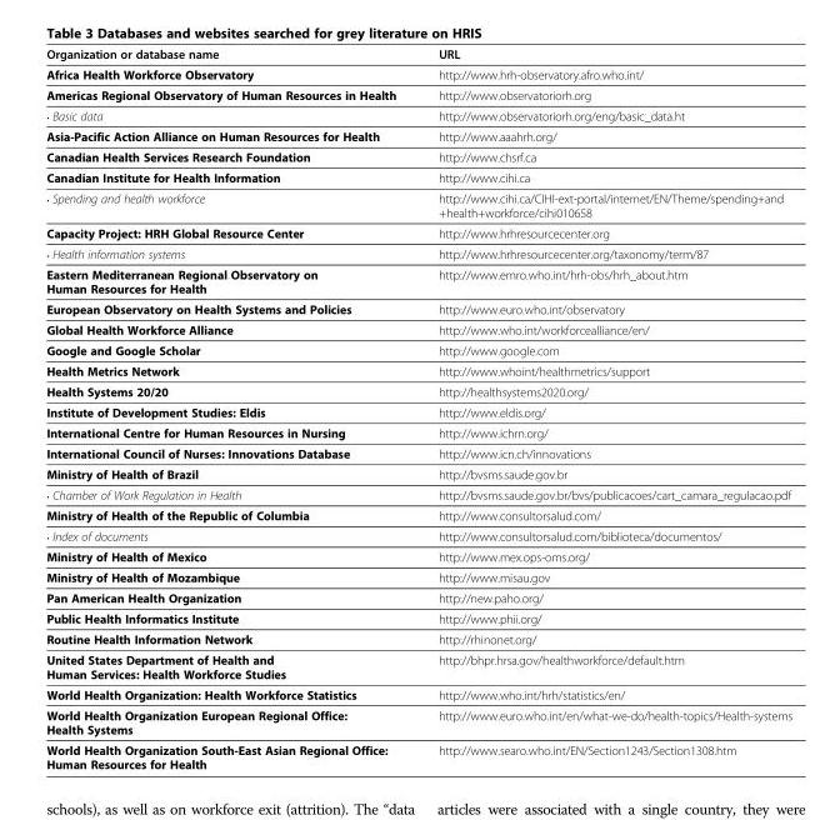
<table><thead><tr><td>Organization or database name</td><td>URL</td></tr></thead><tbody><tr><td>Africa Health Workforce Observatory</td><td>http://www.hrh-observatory.afro.who.int/</td></tr><tr><td>Americas Regional Observatory of Human Resources in Health</td><td>http://www.observatoriorh.org</td></tr><tr><td>• Basic data</td><td>http://www.observatoriorh.org/eng/basic_data.ht</td></tr><tr><td>Asia-Pacific Action Alliance on Human Resources for Health</td><td>http://www.aaahrh.org/</td></tr><tr><td>Canadian Health Services Research Foundation</td><td>http://www.chsrf.ca</td></tr><tr><td>Canadian Institute for Health Information</td><td>http://www.cihi.ca</td></tr><tr><td>• Spending and health workforce</td><td>http://www.cihi.ca/CIHI-ext-portal/internet/EN/Theme/spending+and +health+workforce/cihi010658</td></tr><tr><td>Capacity Project: HRH Global Resource Center</td><td>http://www.hrhresourcecenter.org</td></tr><tr><td>• Health information systems</td><td>http://www.hrhresourcecenter.org/taxonomy/term/87</td></tr><tr><td>Eastern Mediterranean Regional Observatory on Human Resources for Health</td><td>http://www.emro.who.int/hrh-obs/hrh_about.htm</td></tr><tr><td>European Observatory on Health Systems and Policies</td><td>http://www.euro.who.int/observatory</td></tr><tr><td>Global Health Workforce Alliance</td><td>http://www.who.int/workforcealliance/en/</td></tr><tr><td>Google and Google Scholar</td><td>http://www.google.com</td></tr><tr><td>Health Metrics Network</td><td>http://www.whoint/healthmetrics/support</td></tr><tr><td>Health Systems 20/20</td><td>http://healthsystems2020.org/</td></tr><tr><td>Institute of Development Studies: Eldis</td><td>http://www.eldis.org/</td></tr><tr><td>International Centre for Human Resources in Nursing</td><td>http://www.ichrn.org/</td></tr><tr><td>International Council of Nurses: Innovations Database</td><td>http://www.icn.ch/innovations</td></tr><tr><td>Ministry of Health of Brazil</td><td>http://bvsms.saude.gov.br</td></tr><tr><td>• Chamber of Work Regulation in Health</td><td>http://bvsms.saude.gov.br/bvs/publicacoes/cart_camara_regulacao.pdf</td></tr><tr><td>Ministry of Health of the Republic of Columbia</td><td>http://www.consultorsalud.com/</td></tr><tr><td>• Index of documents</td><td>http://www.consultorsalud.com/biblioteca/documentos/</td></tr><tr><td>Ministry of Health of Mexico</td><td>http://www.mex.ops-oms.org/</td></tr><tr><td>Ministry of Health of Mozambique</td><td>http://www.misau.gov</td></tr><tr><td>Pan American Health Organization</td><td>http://new.paho.org/</td></tr><tr><td>Public Health Informatics Institute</td><td>http://www.phii.org/</td></tr><tr><td>Routine Health Information Network</td><td>http://rhinonet.org/</td></tr><tr><td>United States Department of Health and Human Services: Health Workforce Studies</td><td>http://bhpr.hrsa.gov/healthworkforce/default.htm</td></tr><tr><td>World Health Organization: Health Workforce Statistics</td><td>http://www.who.int/hrh/statistics/en/</td></tr><tr><td>World Health Organization European Regional Office: Health Systems</td><td>http://www.euro.who.int/en/what-we-do/health-topics/Health-systems</td></tr><tr><td>World Health Organization South-East Asian Regional Office: Human Resources for Health</td><td>http://www.searo.who.int/EN/Section1243/Section1308.htm</td></tr></tbody></table>